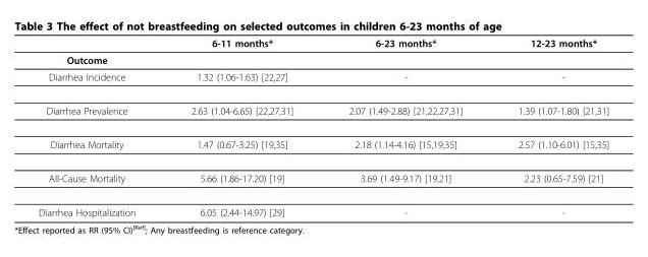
<table><thead><tr><td></td><td>6-11 months*</td><td>6-23 months*</td><td>12-23 months*</td></tr></thead><tbody><tr><td colspan="4">Outcome</td></tr><tr><td>Diarrhea Incidence</td><td>1.32 (1.06-1.63) [22,27]</td><td>-</td><td>-</td></tr><tr><td>Diarrhea Prevalence</td><td>2.63 (1.04-6.65) [22,27,31]</td><td>2.07 (1.49-2.88) [21,22,27,31]</td><td>1.39 (1.07-1.80) [21,31]</td></tr><tr><td>Diarrhea Mortality</td><td>1.47 (0.67-3.25) [19,35]</td><td>2.18 (1.14-4.16) [15,19,35]</td><td>2.57 (1.10-6.01) [15,35]</td></tr><tr><td>All-Cause Mortality</td><td>5.66 (1.86-17.20) [19]</td><td>3.69 (1.49-9.17) [19,21]</td><td>2.23 (0.65-7.59) [21]</td></tr><tr><td>Diarrhea Hospitalization</td><td>6.05 (2.44-14.97) [29]</td><td>-</td><td>-</td></tr></tbody></table>